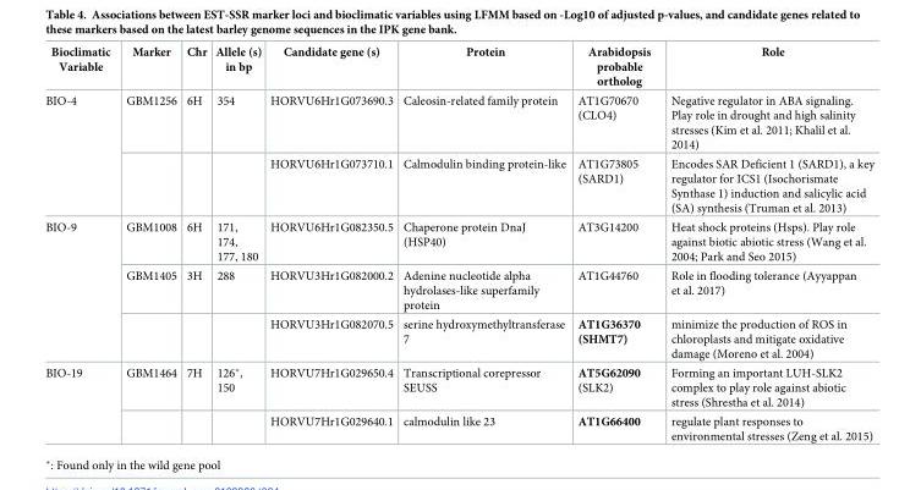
<table><thead><tr><td>Bioclimatic Variable</td><td>Marker</td><td>Chr</td><td>Allele (s) in bp</td><td>Candidate gene (s)</td><td>Protein</td><td>Arabidopsis probable ortholog</td><td>Role</td></tr></thead><tbody><tr><td rowspan="2">BIO-4</td><td>GBM1256</td><td>6H</td><td>354</td><td>HORVU6Hr1G073690.3</td><td>Caleosin-related family protein</td><td>AT1G70670 (CLO4)</td><td>Negative regulator in ABA signaling. Play role in drought and high salinity stresses (Kim et al. 2011; Khalil et al. 2014)</td></tr><tr><td></td><td></td><td></td><td>HORVU6Hr1G073710.1</td><td>Calmodulin binding protein-like</td><td>AT1G73805 (SARD1)</td><td>Encodes SAR Deficient 1 (SARD1), a key regulator for ICS1 (Isochorismate Synthase 1) induction and salicylic acid (SA) synthesis (Truman et al. 2013)</td></tr><tr><td rowspan="3">BIO-9</td><td>GBM1008</td><td>6H</td><td>171, 174, 177, 180</td><td>HORVU6Hr1G082350.5</td><td>Chaperone protein DnaJ (HSP40)</td><td>AT3G14200</td><td>Heat shock proteins (Hsps). Play role against biotic abiotic stress (Wang et al. 2004; Park and Seo 2015)</td></tr><tr><td>GBM1405</td><td>3H</td><td>288</td><td>HORVU3Hr1G082000.2</td><td>Adenine nucleotide alpha hydrolases-like superfamily protein</td><td>AT1G44760</td><td>Role in flooding tolerance (Ayyappan et al. 2017)</td></tr><tr><td></td><td></td><td></td><td>HORVU3Hr1G082070.5</td><td>serine hydroxymethyltransferase 7</td><td>AT1G36370 (SHMT7)</td><td>minimize the production of ROS in chloroplasts and mitigate oxidative damage (Moreno et al. 2004)</td></tr><tr><td rowspan="2">BIO-19</td><td>GBM1464</td><td>7H</td><td>126*, 150</td><td>HORVU7Hr1G029650.4</td><td>Transcriptional corepressor SEUSS</td><td>AT5G62090 (SLK2)</td><td>Forming an important LUH-SLK2 complex to play role against abiotic stress (Shrestha et al. 2014)</td></tr><tr><td></td><td></td><td></td><td>HORVU7Hr1G029640.1</td><td>calmodulin like 23</td><td>AT1G66400</td><td>regulate plant responses to environmental stresses (Zeng et al. 2015)</td></tr></tbody></table>